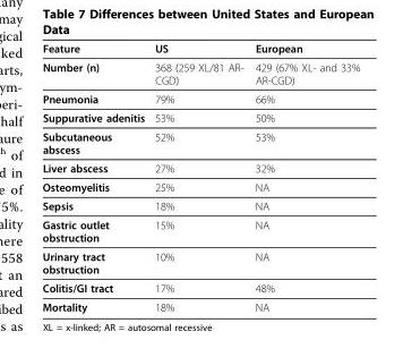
<table><thead><tr><td>Feature</td><td>US</td><td>European</td></tr></thead><tbody><tr><td>Number (n)</td><td>368 (259 XL/81 AR- CGD)</td><td>429 (67% XL- and 33% AR-CGD)</td></tr><tr><td>Pneumonia</td><td>79%</td><td>66%</td></tr><tr><td>Suppurative adenitis</td><td>53%</td><td>50%</td></tr><tr><td>Subcutaneous abscess</td><td>52%</td><td>53%</td></tr><tr><td>Liver abscess</td><td>27%</td><td>32%</td></tr><tr><td>Osteomyelitis</td><td>25%</td><td>NA</td></tr><tr><td>Sepsis</td><td>18%</td><td>NA</td></tr><tr><td>Gastric outlet obstruction</td><td>15%</td><td>NA</td></tr><tr><td>Urinary tract obstruction</td><td>10%</td><td>NA</td></tr><tr><td>Colitis/GI tract</td><td>17%</td><td>48%</td></tr><tr><td>Mortality</td><td>18%</td><td>NA</td></tr></tbody></table>